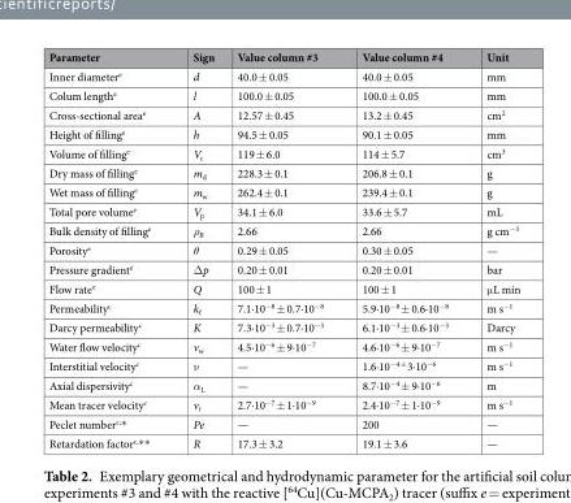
<table><thead><tr><td>Parameter</td><td>Sign</td><td>Value column #3</td><td>Value column #4</td><td>Unit</td></tr></thead><tbody><tr><td>Inner diameter<sup>e</sup></td><td>d</td><td>40.0 ± 0.05</td><td>40.0 ± 0.05</td><td>mm</td></tr><tr><td>Colum length<sup>e</sup></td><td>l</td><td>100.0 ± 0.05</td><td>100.0 ± 0.05</td><td>mm</td></tr><tr><td>Cross-sectional area<sup>e</sup></td><td>A</td><td>12.57 ± 0.45</td><td>13.2 ± 0.45</td><td>cm<sup>2</sup></td></tr><tr><td>Height of filling<sup>e</sup></td><td>h</td><td>94.5 ± 0.05</td><td>90.1 ± 0.05</td><td>mm</td></tr><tr><td>Volume of filling<sup>e</sup></td><td>V<sub>c</sub></td><td>119 ± 6.0</td><td>114 ± 5.7</td><td>cm<sup>3</sup></td></tr><tr><td>Dry mass of filling<sup>e</sup></td><td>m<sub>d</sub></td><td>228.3 ± 0.1</td><td>206.8 ± 0.1</td><td>g</td></tr><tr><td>Wet mass of filling<sup>e</sup></td><td>m<sub>w</sub></td><td>262.4 ± 0.1</td><td>239.4 ± 0.1</td><td>g</td></tr><tr><td>Total pore volume<sup>e</sup></td><td>V<sub>p</sub></td><td>34.1 ± 6.0</td><td>33.6 ± 5.7</td><td>mL</td></tr><tr><td>Bulk density of filling<sup>e</sup></td><td>ρ<sub>B</sub></td><td>2.66</td><td>2.66</td><td>g cm<sup>−3</sup></td></tr><tr><td>Porosity<sup>e</sup></td><td>θ</td><td>0.29 ± 0.05</td><td>0.30 ± 0.05</td><td>—</td></tr><tr><td>Pressure gradient<sup>e</sup></td><td>Δp</td><td>0.20 ± 0.01</td><td>0.20 ± 0.01</td><td>bar</td></tr><tr><td>Flow rate<sup>e</sup></td><td>Q</td><td>100 ± 1</td><td>100 ± 1</td><td>μL min</td></tr><tr><td>Permeability<sup>c</sup></td><td>k<sub>f</sub></td><td>7.1·10<sup>−8</sup> ± 0.7·10<sup>−8</sup></td><td>5.9·10<sup>−8</sup> ± 0.6·10<sup>−8</sup></td><td>m s<sup>−1</sup></td></tr><tr><td>Darcy permeability<sup>c</sup></td><td>K</td><td>7.3·10<sup>−3</sup> ± 0.7·10<sup>−3</sup></td><td>6.1·10<sup>−3</sup> ± 0.6·10<sup>−3</sup></td><td>Darcy</td></tr><tr><td>Water flow velocity<sup>c</sup></td><td>v<sub>w</sub></td><td>4.5·10<sup>−6</sup> ± 9·10<sup>−7</sup></td><td>4.6·10<sup>−6</sup> ± 9·10<sup>−7</sup></td><td>m s<sup>−1</sup></td></tr><tr><td>Interstitial velocity<sup>c</sup></td><td>ν</td><td>—</td><td>1.6·10<sup>−4 ±</sup> 3·10<sup>−6</sup></td><td>m s<sup>−1</sup></td></tr><tr><td>Axial dispersivity<sup>c</sup></td><td>α<sub>L</sub></td><td>—</td><td>8.7·10<sup>−4</sup> ± 9·10<sup>−6</sup></td><td>m</td></tr><tr><td>Mean tracer velocity<sup>c</sup></td><td>v<sub>t</sub></td><td>2.7·10<sup>−7</sup> ± 1·10<sup>−9</sup></td><td>2.4·10<sup>−7</sup> ± 1·10<sup>−9</sup></td><td>m s<sup>−1</sup></td></tr><tr><td>Peclet number<sup>c,</sup>*</td><td>Pe</td><td>—</td><td>200</td><td>—</td></tr><tr><td>Retardation factor<sup>c,</sup>**</td><td>R</td><td>17.3 ± 3.2</td><td>19.1 ± 3.6</td><td>—</td></tr></tbody></table>